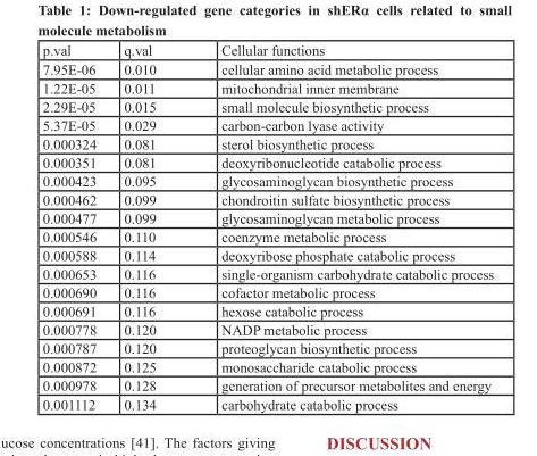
<table><thead><tr><td>p.val</td><td>q.val</td><td>Cellular functions</td></tr></thead><tbody><tr><td>7.95E-06</td><td>0.010</td><td>cellular amino acid metabolic process</td></tr><tr><td>1.22E-05</td><td>0.011</td><td>mitochondrial inner membrane</td></tr><tr><td>2.29E-05</td><td>0.015</td><td>small molecule biosynthetic process</td></tr><tr><td>5.37E-05</td><td>0.029</td><td>carbon-carbon lyase activity</td></tr><tr><td>0.000324</td><td>0.081</td><td>sterol biosynthetic process</td></tr><tr><td>0.000351</td><td>0.081</td><td>deoxyribonucleotide catabolic process</td></tr><tr><td>0.000423</td><td>0.095</td><td>glycosaminoglycan biosynthetic process</td></tr><tr><td>0.000462</td><td>0.099</td><td>chondroitin sulfate biosynthetic process</td></tr><tr><td>0.000477</td><td>0.099</td><td>glycosaminoglycan metabolic process</td></tr><tr><td>0.000546</td><td>0.110</td><td>coenzyme metabolic process</td></tr><tr><td>0.000588</td><td>0.114</td><td>deoxyribose phosphate catabolic process</td></tr><tr><td>0.000653</td><td>0.116</td><td>single-organism carbohydrate catabolic process</td></tr><tr><td>0.000690</td><td>0.116</td><td>cofactor metabolic process</td></tr><tr><td>0.000691</td><td>0.116</td><td>hexose catabolic process</td></tr><tr><td>0.000778</td><td>0.120</td><td>NADP metabolic process</td></tr><tr><td>0.000787</td><td>0.120</td><td>proteoglycan biosynthetic process</td></tr><tr><td>0.000872</td><td>0.125</td><td>monosaccharide catabolic process</td></tr><tr><td>0.000978</td><td>0.128</td><td>generation of precursor metabolites and energy</td></tr><tr><td>0.001112</td><td>0.134</td><td>carbohydrate catabolic process</td></tr></tbody></table>